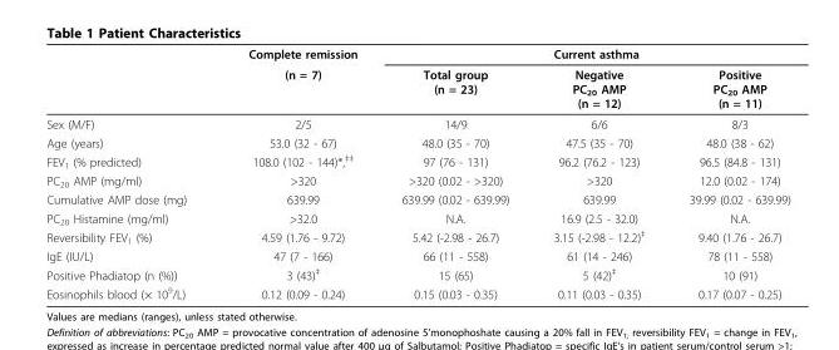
<table><thead><tr><td rowspan="2"></td><td rowspan="2">Complete remission (n = 7)</td><td colspan="3">Current asthma</td></tr><tr><td>Total group (n = 23)</td><td>Negative PC<sub>20</sub> AMP (n = 12)</td><td>Positive PC<sub>20</sub> AMP (n = 11)</td></tr></thead><tbody><tr><td>Sex (M/F)</td><td>2/5</td><td>14/9</td><td>6/6</td><td>8/3</td></tr><tr><td>Age (years)</td><td>53.0 (32 - 67)</td><td>48.0 (35 - 70)</td><td>47.5 (35 - 70)</td><td>48.0 (38 - 62)</td></tr><tr><td>FEV<sub>1</sub> (% predicted)</td><td>108.0 (102 - 144)*,<sup>‡‡</sup></td><td>97 (76 - 131)</td><td>96.2 (76.2 - 123)</td><td>96.5 (84.8 - 131)</td></tr><tr><td>PC<sub>20</sub> AMP (mg/ml)</td><td>&gt;320</td><td>&gt;320 (0.02 - &gt;320)</td><td>&gt;320</td><td>12.0 (0.02 - 174)</td></tr><tr><td>Cumulative AMP dose (mg)</td><td>639.99</td><td>639.99 (0.02 - 639.99)</td><td>639.99</td><td>39.99 (0.02 - 639.99)</td></tr><tr><td>PC<sub>20</sub> Histamine (mg/ml)</td><td>&gt;32.0</td><td>N.A.</td><td>16.9 (2.5 - 32.0)</td><td>N.A.</td></tr><tr><td>Reversibility FEV<sub>1</sub> (%)</td><td>4.59 (1.76 - 9.72)</td><td>5.42 (-2.98 - 26.7)</td><td>3.15 (-2.98 - 12.2)<sup>‡</sup></td><td>9.40 (1.76 - 26.7)</td></tr><tr><td>IgE (IU/L)</td><td>47 (7 - 166)</td><td>66 (11 - 558)</td><td>61 (14 - 246)</td><td>78 (11 - 558)</td></tr><tr><td>Positive Phadiatop (n (%))</td><td>3 (43)<sup>‡</sup></td><td>15 (65)</td><td>5 (42)<sup>‡</sup></td><td>10 (91)</td></tr><tr><td>Eosinophils blood (× 10<sup>9</sup>/L)</td><td>0.12 (0.09 - 0.24)</td><td>0.15 (0.03 - 0.35)</td><td>0.11 (0.03 - 0.35)</td><td>0.17 (0.07 - 0.25)</td></tr></tbody></table>